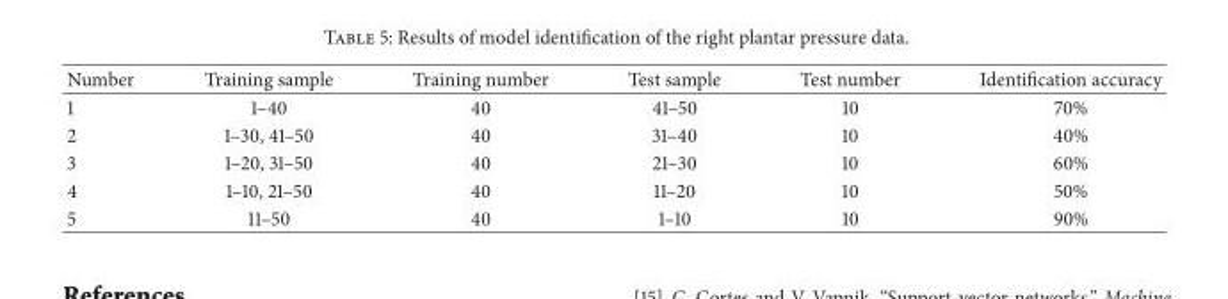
<table><thead><tr><td>Number</td><td>Training sample</td><td>Training number</td><td>Test sample</td><td>Test number</td><td>Identification accuracy</td></tr></thead><tbody><tr><td>1</td><td>1–40</td><td>40</td><td>41–50</td><td>10</td><td>70%</td></tr><tr><td>2</td><td>1–30, 41–50</td><td>40</td><td>31–40</td><td>10</td><td>40%</td></tr><tr><td>3</td><td>1–20, 31–50</td><td>40</td><td>21–30</td><td>10</td><td>60%</td></tr><tr><td>4</td><td>1–10, 21–50</td><td>40</td><td>11–20</td><td>10</td><td>50%</td></tr><tr><td>5</td><td>11–50</td><td>40</td><td>1–10</td><td>10</td><td>90%</td></tr></tbody></table>